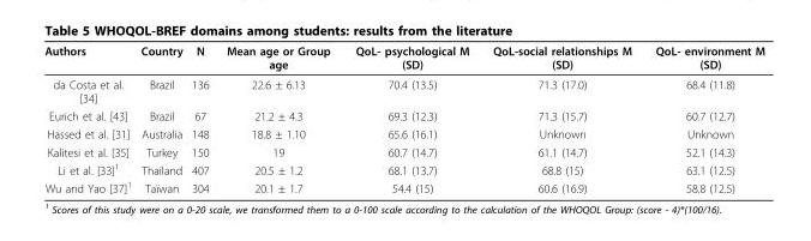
<table><thead><tr><td>Authors</td><td>Country</td><td>N</td><td>Mean age or Group age</td><td>QoL- psychological M (SD)</td><td>QoL-social relationships M (SD)</td><td>QoL- environment M (SD)</td></tr></thead><tbody><tr><td>da Costa et al. [34]</td><td>Brazil</td><td>136</td><td>22.6 ± 6.13</td><td>70.4 (13.5)</td><td>71.3 (17.0)</td><td>68.4 (11.8)</td></tr><tr><td>Eurich et al. [43]</td><td>Brazil</td><td>67</td><td>21.2 ± 4.3</td><td>69.3 (12.3)</td><td>71.3 (15.7)</td><td>60.7 (12.7)</td></tr><tr><td>Hassed et al. [31]</td><td>Australia</td><td>148</td><td>18.8 ± 1.10</td><td>65.6 (16.1)</td><td>Unknown</td><td>Unknown</td></tr><tr><td>Kalitesi et al. [35]</td><td>Turkey</td><td>150</td><td>19</td><td>60.7 (14.7)</td><td>61.1 (14.7)</td><td>52.1 (14.3)</td></tr><tr><td>Li et al. [33]<sup>1</sup></td><td>Thailand</td><td>407</td><td>20.5 ± 1.2</td><td>68.1 (13.7)</td><td>68.8 (15)</td><td>63.1 (12.5)</td></tr><tr><td>Wu and Yao [37]<sup>1</sup></td><td>Taïwan</td><td>304</td><td>20.1 ± 1.7</td><td>54.4 (15)</td><td>60.6 (16.9)</td><td>58.8 (12.5)</td></tr></tbody></table>